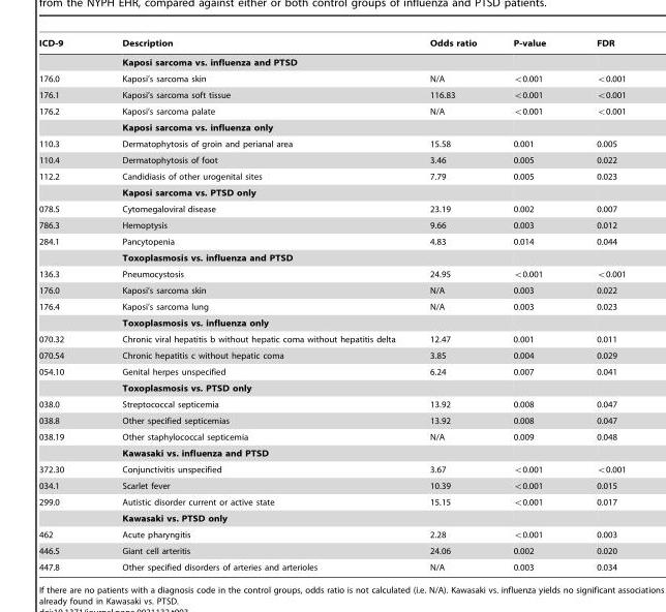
<table><thead><tr><td>ICD-9</td><td>Description</td><td>Odds ratio</td><td>P-value</td><td>FDR</td></tr></thead><tbody><tr><td></td><td>Kaposi sarcoma vs. influenza and PTSD</td><td></td><td></td><td></td></tr><tr><td>176.0</td><td>Kaposi’s sarcoma skin</td><td>N/A</td><td>v0.001</td><td>v0.001</td></tr><tr><td>176.1</td><td>Kaposi’s sarcoma soft tissue</td><td>116.83</td><td>v0.001</td><td>v0.001</td></tr><tr><td rowspan="2">176.2</td><td>Kaposi’s sarcoma palate</td><td>N/A</td><td>v0.001</td><td>v0.001</td></tr><tr><td>Kaposi sarcoma vs. influenza only</td><td></td><td></td><td></td></tr><tr><td>110.3</td><td>Dermatophytosis of groin and perianal area</td><td>15.58</td><td>0.001</td><td>0.005</td></tr><tr><td>110.4</td><td>Dermatophytosis of foot</td><td>3.46</td><td>0.005</td><td>0.022</td></tr><tr><td rowspan="2">112.2</td><td>Candidiasis of other urogenital sites</td><td>7.79</td><td>0.005</td><td>0.023</td></tr><tr><td>Kaposi sarcoma vs. PTSD only</td><td></td><td></td><td></td></tr><tr><td>078.5</td><td>Cytomegaloviral disease</td><td>23.19</td><td>0.002</td><td>0.007</td></tr><tr><td>786.3</td><td>Hemoptysis</td><td>9.66</td><td>0.003</td><td>0.012</td></tr><tr><td rowspan="2">284.1</td><td>Pancytopenia</td><td>4.83</td><td>0.014</td><td>0.044</td></tr><tr><td>Toxoplasmosis vs. influenza and PTSD</td><td></td><td></td><td></td></tr><tr><td>136.3</td><td>Pneumocystosis</td><td>24.95</td><td>v0.001</td><td>v0.001</td></tr><tr><td>176.0</td><td>Kaposi’s sarcoma skin</td><td>N/A</td><td>0.003</td><td>0.022</td></tr><tr><td rowspan="2">176.4</td><td>Kaposi’s sarcoma lung</td><td>N/A</td><td>0.003</td><td>0.023</td></tr><tr><td>Toxoplasmosis vs. influenza only</td><td></td><td></td><td></td></tr><tr><td>070.32</td><td>Chronic viral hepatitis b without hepatic coma without hepatitis delta</td><td>12.47</td><td>0.001</td><td>0.011</td></tr><tr><td>070.54</td><td>Chronic hepatitis c without hepatic coma</td><td>3.85</td><td>0.004</td><td>0.029</td></tr><tr><td rowspan="2">054.10</td><td>Genital herpes unspecified</td><td>6.24</td><td>0.007</td><td>0.041</td></tr><tr><td>Toxoplasmosis vs. PTSD only</td><td></td><td></td><td></td></tr><tr><td>038.0</td><td>Streptococcal septicemia</td><td>13.92</td><td>0.008</td><td>0.047</td></tr><tr><td>038.8</td><td>Other specified septicemias</td><td>13.92</td><td>0.008</td><td>0.047</td></tr><tr><td rowspan="2">038.19</td><td>Other staphylococcal septicemia</td><td>N/A</td><td>0.009</td><td>0.048</td></tr><tr><td>Kawasaki vs. influenza and PTSD</td><td></td><td></td><td></td></tr><tr><td>372.30</td><td>Conjunctivitis unspecified</td><td>3.67</td><td>v0.001</td><td>v0.001</td></tr><tr><td>034.1</td><td>Scarlet fever</td><td>10.39</td><td>v0.001</td><td>0.015</td></tr><tr><td rowspan="2">299.0</td><td>Autistic disorder current or active state</td><td>15.15</td><td>v0.001</td><td>0.017</td></tr><tr><td>Kawasaki vs. PTSD only</td><td></td><td></td><td></td></tr><tr><td>462</td><td>Acute pharyngitis</td><td>2.28</td><td>v0.001</td><td>0.003</td></tr><tr><td>446.5</td><td>Giant cell arteritis</td><td>24.06</td><td>0.002</td><td>0.020</td></tr><tr><td>447.8</td><td>Other specified disorders of arteries and arterioles</td><td>N/A</td><td>0.003</td><td>0.034</td></tr></tbody></table>